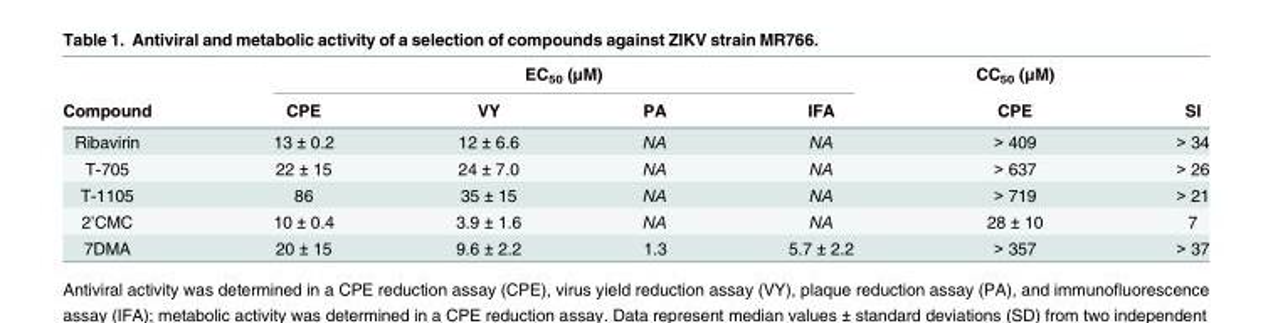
<table><thead><tr><td rowspan="2">Compound</td><td colspan="4">EC<sub>50</sub> (μM)</td><td rowspan="2">CC<sub>50</sub> (μM) CPE</td><td rowspan="2">SI</td></tr><tr><td>CPE</td><td>VY</td><td>PA</td><td>IFA</td></tr></thead><tbody><tr><td>Ribavirin</td><td>13 ± 0.2</td><td>12 ± 6.6</td><td>NA</td><td>NA</td><td>&gt; 409</td><td>&gt; 34</td></tr><tr><td>T-705</td><td>22 ± 15</td><td>24 ± 7.0</td><td>NA</td><td>NA</td><td>&gt; 637</td><td>&gt; 26</td></tr><tr><td>T-1105</td><td>86</td><td>35 ± 15</td><td>NA</td><td>NA</td><td>&gt; 719</td><td>&gt; 21</td></tr><tr><td>2’CMC</td><td>10 ± 0.4</td><td>3.9 ± 1.6</td><td>NA</td><td>NA</td><td>28 ± 10</td><td>7</td></tr><tr><td>7DMA</td><td>20 ± 15</td><td>9.6 ± 2.2</td><td>1.3</td><td>5.7 ± 2.2</td><td>&gt; 357</td><td>&gt; 37</td></tr></tbody></table>